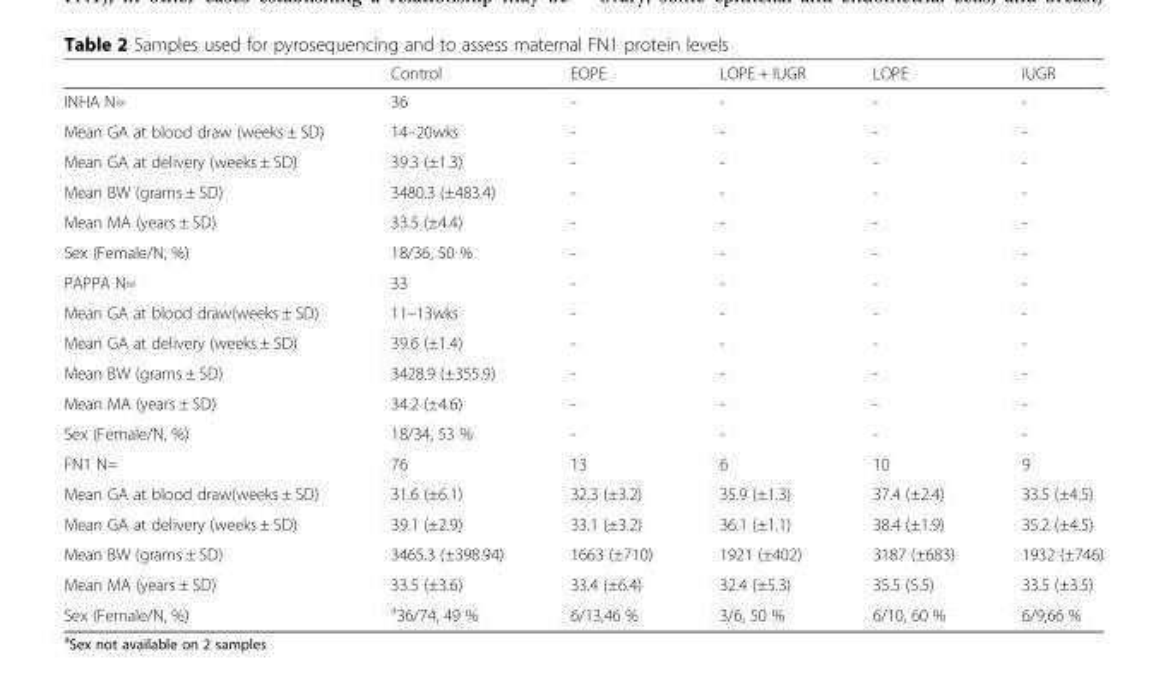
<table><thead><tr><td></td><td>Control</td><td>EOPE</td><td>LOPE + IUGR</td><td>LOPE</td><td>IUGR</td></tr></thead><tbody><tr><td>INHA N=</td><td>36</td><td>-</td><td>-</td><td>-</td><td>-</td></tr><tr><td>Mean GA at blood draw (weeks ± SD)</td><td>14–20wks</td><td>-</td><td>-</td><td>-</td><td>-</td></tr><tr><td>Mean GA at delivery (weeks ± SD)</td><td>39.3 (±1.3)</td><td>-</td><td>-</td><td>-</td><td>-</td></tr><tr><td>Mean BW (grams ± SD)</td><td>3480.3 (±483.4)</td><td>-</td><td>-</td><td>-</td><td>-</td></tr><tr><td>Mean MA (years ± SD)</td><td>33.5 (±4.4)</td><td>-</td><td>-</td><td>-</td><td>-</td></tr><tr><td>Sex (Female/N, %)</td><td>18/36, 50 %</td><td>-</td><td>-</td><td>-</td><td>-</td></tr><tr><td>PAPPA N=</td><td>33</td><td>-</td><td>-</td><td>-</td><td>-</td></tr><tr><td>Mean GA at blood draw(weeks ± SD)</td><td>11–13wks</td><td>-</td><td>-</td><td>-</td><td>-</td></tr><tr><td>Mean GA at delivery (weeks ± SD)</td><td>39.6 (±1.4)</td><td>-</td><td>-</td><td>-</td><td>-</td></tr><tr><td>Mean BW (grams ± SD)</td><td>3428.9 (±355.9)</td><td>-</td><td>-</td><td>-</td><td>-</td></tr><tr><td>Mean MA (years ± SD)</td><td>34.2 (±4.6)</td><td>-</td><td>-</td><td>-</td><td>-</td></tr><tr><td>Sex (Female/N, %)</td><td>18/34, 53 %</td><td>-</td><td>-</td><td>-</td><td>-</td></tr><tr><td>FN1 N=</td><td>76</td><td>13</td><td>6</td><td>10</td><td>9</td></tr><tr><td>Mean GA at blood draw(weeks ± SD)</td><td>31.6 (±6.1)</td><td>32.3 (±3.2)</td><td>35.9 (±1.3)</td><td>37.4 (±2.4)</td><td>33.5 (±4.5)</td></tr><tr><td>Mean GA at delivery (weeks ± SD)</td><td>39.1 (±2.9)</td><td>33.1 (±3.2)</td><td>36.1 (±1.1)</td><td>38.4 (±1.9)</td><td>35.2 (±4.5)</td></tr><tr><td>Mean BW (grams ± SD)</td><td>3465.3 (±398.94)</td><td>1663 (±710)</td><td>1921 (±402)</td><td>3187 (±683)</td><td>1932 (±746)</td></tr><tr><td>Mean MA (years ± SD)</td><td>33.5 (±3.6)</td><td>33.4 (±6.4)</td><td>32.4 (±5.3)</td><td>35.5 (5.5)</td><td>33.5 (±3.5)</td></tr><tr><td>Sex (Female/N, %)</td><td><sup>a</sup>36/74, 49 %</td><td>6/13,46 %</td><td>3/6, 50 %</td><td>6/10, 60 %</td><td>6/9,66 %</td></tr></tbody></table>